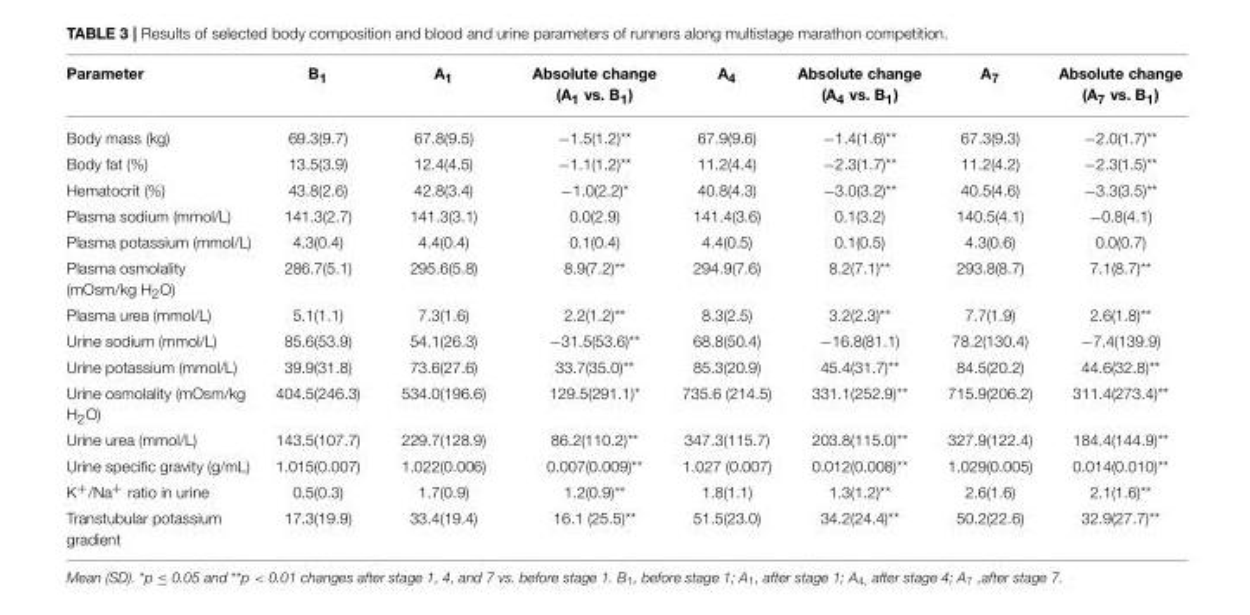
<table><thead><tr><td>Parameter</td><td>B<sub>1</sub></td><td>A<sub>1</sub></td><td>Absolute change (A<sub>1</sub> vs. B<sub>1</sub>)</td><td>A<sub>4</sub></td><td>Absolute change (A<sub>4</sub> vs. B<sub>1</sub>)</td><td>A<sub>7</sub></td><td>Absolute change (A<sub>7</sub> vs. B<sub>1</sub>)</td></tr></thead><tbody><tr><td>Body mass (kg)</td><td>69.3(9.7)</td><td>67.8(9.5)</td><td>−1.5(1.2)**</td><td>67.9(9.6)</td><td>−1.4(1.6)**</td><td>67.3(9.3)</td><td>−2.0(1.7)**</td></tr><tr><td>Body fat (%)</td><td>13.5(3.9)</td><td>12.4(4.5)</td><td>−1.1(1.2)**</td><td>11.2(4.4)</td><td>−2.3(1.7)**</td><td>11.2(4.2)</td><td>−2.3(1.5)**</td></tr><tr><td>Hematocrit (%)</td><td>43.8(2.6)</td><td>42.8(3.4)</td><td>−1.0(2.2)*</td><td>40.8(4.3)</td><td>−3.0(3.2)**</td><td>40.5(4.6)</td><td>−3.3(3.5)**</td></tr><tr><td>Plasma sodium (mmol/L)</td><td>141.3(2.7)</td><td>141.3(3.1)</td><td>0.0(2.9)</td><td>141.4(3.6)</td><td>0.1(3.2)</td><td>140.5(4.1)</td><td>−0.8(4.1)</td></tr><tr><td>Plasma potassium (mmol/L)</td><td>4.3(0.4)</td><td>4.4(0.4)</td><td>0.1(0.4)</td><td>4.4(0.5)</td><td>0.1(0.5)</td><td>4.3(0.6)</td><td>0.0(0.7)</td></tr><tr><td>Plasma osmolality (mOsm/kg H<sub>2</sub>O)</td><td>286.7(5.1)</td><td>295.6(5.8)</td><td>8.9(7.2)**</td><td>294.9(7.6)</td><td>8.2(7.1)**</td><td>293.8(8.7)</td><td>7.1(8.7)**</td></tr><tr><td>Plasma urea (mmol/L)</td><td>5.1(1.1)</td><td>7.3(1.6)</td><td>2.2(1.2)**</td><td>8.3(2.5)</td><td>3.2(2.3)**</td><td>7.7(1.9)</td><td>2.6(1.8)**</td></tr><tr><td>Urine sodium (mmol/L)</td><td>85.6(53.9)</td><td>54.1(26.3)</td><td>−31.5(53.6)**</td><td>68.8(50.4)</td><td>−16.8(81.1)</td><td>78.2(130.4)</td><td>−7.4(139.9)</td></tr><tr><td>Urine potassium (mmol/L)</td><td>39.9(31.8)</td><td>73.6(27.6)</td><td>33.7(35.0)**</td><td>85.3(20.9)</td><td>45.4(31.7)**</td><td>84.5(20.2)</td><td>44.6(32.8)**</td></tr><tr><td>Urine osmolality (mOsm/kg H<sub>2</sub>O)</td><td>404.5(246.3)</td><td>534.0(196.6)</td><td>129.5(291.1)*</td><td>735.6 (214.5)</td><td>331.1(252.9)**</td><td>715.9(206.2)</td><td>311.4(273.4)**</td></tr><tr><td>Urine urea (mmol/L)</td><td>143.5(107.7)</td><td>229.7(128.9)</td><td>86.2(110.2)**</td><td>347.3(115.7)</td><td>203.8(115.0)**</td><td>327.9(122.4)</td><td>184.4(144.9)**</td></tr><tr><td>Urine specific gravity (g/mL)</td><td>1.015(0.007)</td><td>1.022(0.006)</td><td>0.007(0.009)**</td><td>1.027 (0.007)</td><td>0.012(0.008)**</td><td>1.029(0.005)</td><td>0.014(0.010)**</td></tr><tr><td>K<sup>+</sup>/Na<sup>+</sup> ratio in urine</td><td>0.5(0.3)</td><td>1.7(0.9)</td><td>1.2(0.9)**</td><td>1.8(1.1)</td><td>1.3(1.2)**</td><td>2.6(1.6)</td><td>2.1(1.6)**</td></tr><tr><td>Transtubular potassium gradient</td><td>17.3(19.9)</td><td>33.4(19.4)</td><td>16.1 (25.5)**</td><td>51.5(23.0)</td><td>34.2(24.4)**</td><td>50.2(22.6)</td><td>32.9(27.7)**</td></tr></tbody></table>